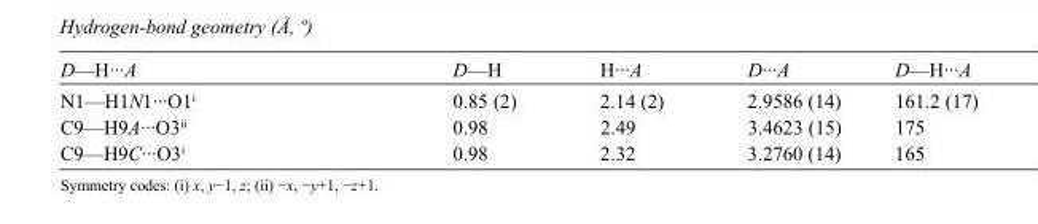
<table><tbody><tr><td>D—H···A</td><td>D—H</td><td>H···A</td><td>D···A</td><td>D—H···A</td></tr><tr><td>N1—H1N1···O1<sup>i</sup></td><td>0.85 (2)</td><td>2.14 (2)</td><td>2.9586 (14)</td><td>161.2 (17)</td></tr><tr><td>C9—H9A···O3<sup>ii</sup></td><td>0.98</td><td>2.49</td><td>3.4623 (15)</td><td>175</td></tr><tr><td>C9—H9C···O3<sup>i</sup></td><td>0.98</td><td>2.32</td><td>3.2760 (14)</td><td>165</td></tr></tbody></table>